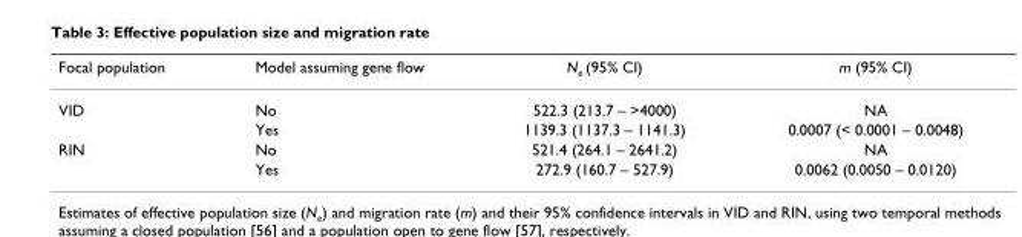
<table><thead><tr><td>Focal population</td><td>Model assuming gene flow</td><td>N<sub>e</sub> (95% CI)</td><td>m (95% CI)</td></tr></thead><tbody><tr><td rowspan="2">VID</td><td>No</td><td>522.3 (213.7 – &gt;4000)</td><td>NA</td></tr><tr><td>Yes</td><td>1139.3 (1137.3 – 1141.3)</td><td>0.0007 (&lt; 0.0001 – 0.0048)</td></tr><tr><td rowspan="2">RIN</td><td>No</td><td>521.4 (264.1 – 2641.2)</td><td>NA</td></tr><tr><td>Yes</td><td>272.9 (160.7 – 527.9)</td><td>0.0062 (0.0050 – 0.0120)</td></tr></tbody></table>